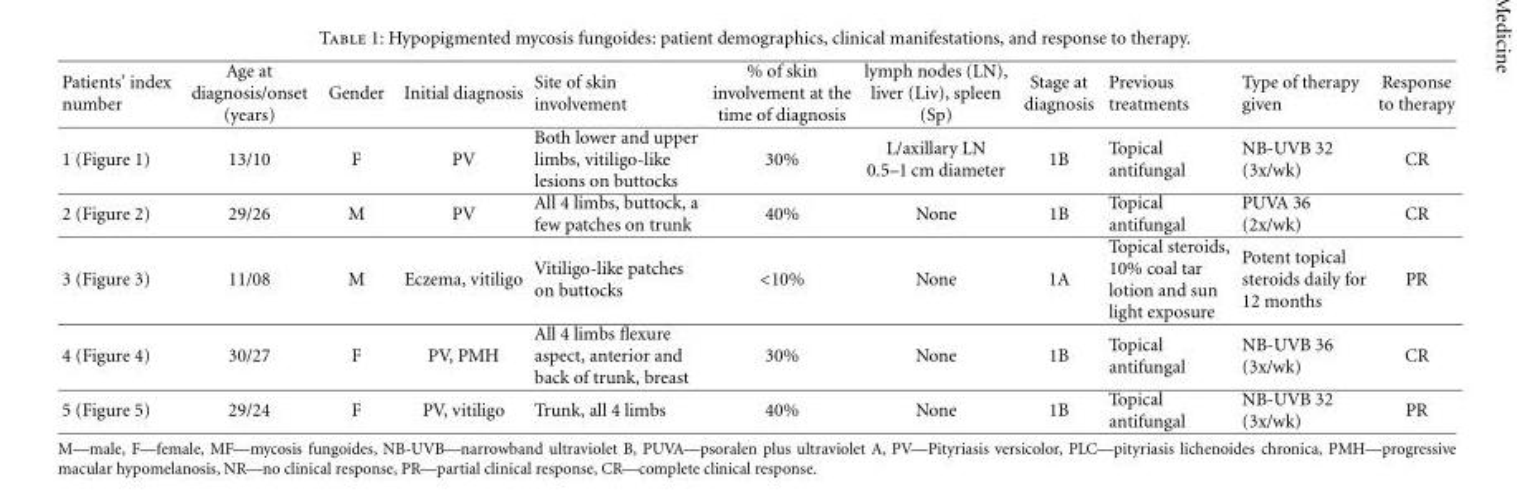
<table><thead><tr><td>Patients’ index number</td><td>Age at diagnosis/onset (years)</td><td>Gender</td><td>Initial diagnosis</td><td>Site of skin involvement</td><td>% of skin involvement at the time of diagnosis</td><td>lymph nodes (LN), liver (Liv), spleen (Sp)</td><td>Stage at diagnosis</td><td>Previous treatments</td><td>Type of therapy given</td><td>Response to therapy</td></tr></thead><tbody><tr><td>1 (Figure 1)</td><td>13/10</td><td>F</td><td>PV</td><td>Both lower and upper limbs, vitiligo-like lesions on buttocks</td><td>30%</td><td>L/axillary LN 0.5–1 cm diameter</td><td>1B</td><td>Topical antifungal</td><td>NB-UVB 32 (3x/wk)</td><td>CR</td></tr><tr><td>2 (Figure 2)</td><td>29/26</td><td>M</td><td>PV</td><td>All 4 limbs, buttock, a few patches on trunk</td><td>40%</td><td>None</td><td>1B</td><td>Topical antifungal</td><td>PUVA 36 (2x/wk)</td><td>CR</td></tr><tr><td>3 (Figure 3)</td><td>11/08</td><td>M</td><td>Eczema, vitiligo</td><td>Vitiligo-like patches on buttocks</td><td>&lt;10%</td><td>None</td><td>1A</td><td>Topical steroids, 10% coal tar lotion and sun light exposure</td><td>Potent topical steroids daily for 12 months</td><td>PR</td></tr><tr><td>4 (Figure 4)</td><td>30/27</td><td>F</td><td>PV, PMH</td><td>All 4 limbs flexure aspect, anterior and back of trunk, breast</td><td>30%</td><td>None</td><td>1B</td><td>Topical antifungal</td><td>NB-UVB 36 (3x/wk)</td><td>CR</td></tr><tr><td>5 (Figure 5)</td><td>29/24</td><td>F</td><td>PV, vitiligo</td><td>Trunk, all 4 limbs</td><td>40%</td><td>None</td><td>1B</td><td>Topical antifungal</td><td>NB-UVB 32 (3x/wk)</td><td>PR</td></tr></tbody></table>